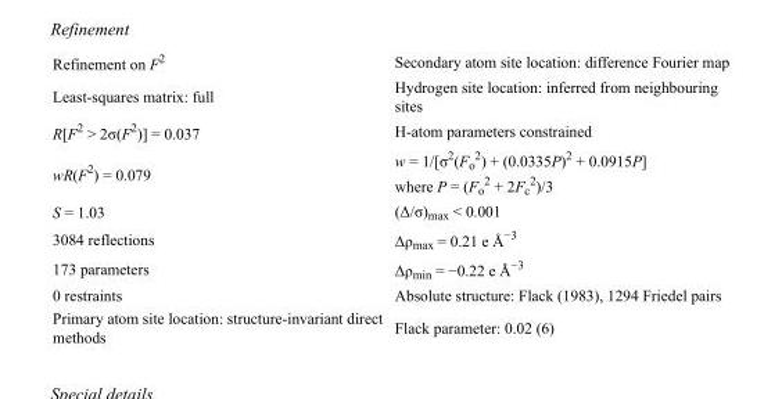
<table><tbody><tr><td>Refinement on F<sup>2</sup></td><td>Secondary atom site location: difference Fourier map</td></tr><tr><td>Least-squares matrix: full</td><td>Hydrogen site location: inferred from neighbouring sites</td></tr><tr><td>R[F<sup>2</sup> &gt; 2σ(F<sup>2</sup>)] = 0.037</td><td>H-atom parameters constrained</td></tr><tr><td>wR(F<sup>2</sup>) = 0.079</td><td>w = 1/[σ<sup>2</sup>(F<sub>o</sub> <sup>2</sup>) + (0.0335P)<sup>2</sup> + 0.0915P] where P = (F<sub>o</sub> <sup>2</sup> + 2F<sub>c</sub> <sup>2</sup>)/3</td></tr><tr><td>S = 1.03</td><td>(Δ/σ)<sub>max</sub> &lt; 0.001</td></tr><tr><td>3084 reflections</td><td>Δρ<sub>max</sub> = 0.21 e Å<sup>−3</sup></td></tr><tr><td>173 parameters</td><td>Δρ<sub>min</sub> = −0.22 e Å<sup>−3</sup></td></tr><tr><td>0 restraints</td><td>Absolute structure: Flack (1983), 1294 Friedel pairs</td></tr><tr><td>Primary atom site location: structure-invariant direct methods</td><td>Flack parameter: 0.02 (6)</td></tr></tbody></table>